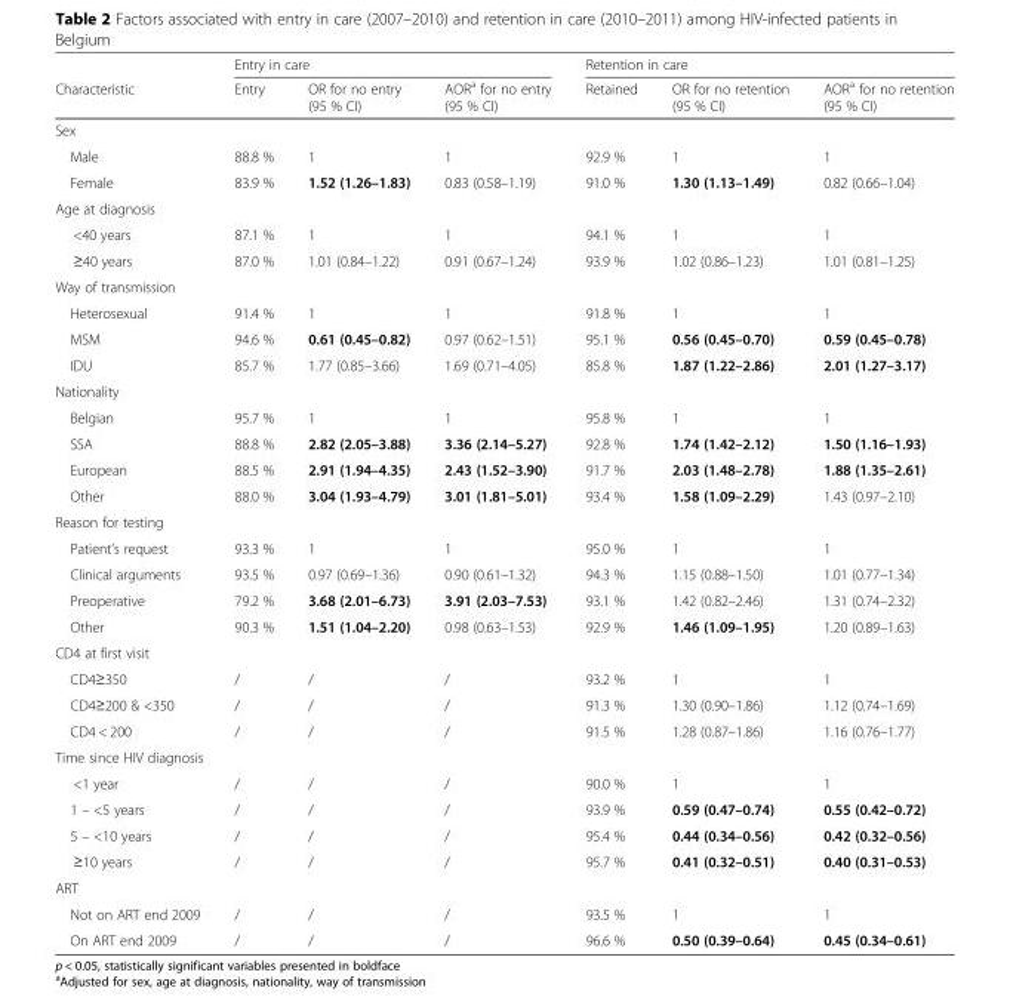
<table><thead><tr><td rowspan="2">Characteristic</td><td colspan="3">Entry in care</td><td colspan="3">Retention in care</td></tr><tr><td>Entry</td><td>OR for no entry (95 % CI)</td><td>AOR<sup>a</sup> for no entry (95 % CI)</td><td>Retained</td><td>OR for no retention (95 % CI)</td><td>AOR<sup>a</sup> for no retention (95 % CI)</td></tr></thead><tbody><tr><td colspan="7">Sex</td></tr><tr><td>Male</td><td>88.8 %</td><td>1</td><td>1</td><td>92.9 %</td><td>1</td><td>1</td></tr><tr><td>Female</td><td>83.9 %</td><td>1.52 (1.26–1.83)</td><td>0.83 (0.58–1.19)</td><td>91.0 %</td><td>1.30 (1.13–1.49)</td><td>0.82 (0.66–1.04)</td></tr><tr><td colspan="7">Age at diagnosis</td></tr><tr><td>&lt;40 years</td><td>87.1 %</td><td>1</td><td>1</td><td>94.1 %</td><td>1</td><td>1</td></tr><tr><td>≥40 years</td><td>87.0 %</td><td>1.01 (0.84–1.22)</td><td>0.91 (0.67–1.24)</td><td>93.9 %</td><td>1.02 (0.86–1.23)</td><td>1.01 (0.81–1.25)</td></tr><tr><td colspan="7">Way of transmission</td></tr><tr><td>Heterosexual</td><td>91.4 %</td><td>1</td><td>1</td><td>91.8 %</td><td>1</td><td>1</td></tr><tr><td>MSM</td><td>94.6 %</td><td>0.61 (0.45–0.82)</td><td>0.97 (0.62–1.51)</td><td>95.1 %</td><td>0.56 (0.45–0.70)</td><td>0.59 (0.45–0.78)</td></tr><tr><td>IDU</td><td>85.7 %</td><td>1.77 (0.85–3.66)</td><td>1.69 (0.71–4.05)</td><td>85.8 %</td><td>1.87 (1.22–2.86)</td><td>2.01 (1.27–3.17)</td></tr><tr><td colspan="7">Nationality</td></tr><tr><td>Belgian</td><td>95.7 %</td><td>1</td><td>1</td><td>95.8 %</td><td>1</td><td>1</td></tr><tr><td>SSA</td><td>88.8 %</td><td>2.82 (2.05–3.88)</td><td>3.36 (2.14–5.27)</td><td>92.8 %</td><td>1.74 (1.42–2.12)</td><td>1.50 (1.16–1.93)</td></tr><tr><td>European</td><td>88.5 %</td><td>2.91 (1.94–4.35)</td><td>2.43 (1.52–3.90)</td><td>91.7 %</td><td>2.03 (1.48–2.78)</td><td>1.88 (1.35–2.61)</td></tr><tr><td>Other</td><td>88.0 %</td><td>3.04 (1.93–4.79)</td><td>3.01 (1.81–5.01)</td><td>93.4 %</td><td>1.58 (1.09–2.29)</td><td>1.43 (0.97–2.10)</td></tr><tr><td colspan="7">Reason for testing</td></tr><tr><td>Patient’s request</td><td>93.3 %</td><td>1</td><td>1</td><td>95.0 %</td><td>1</td><td>1</td></tr><tr><td>Clinical arguments</td><td>93.5 %</td><td>0.97 (0.69–1.36)</td><td>0.90 (0.61–1.32)</td><td>94.3 %</td><td>1.15 (0.88–1.50)</td><td>1.01 (0.77–1.34)</td></tr><tr><td>Preoperative</td><td>79.2 %</td><td>3.68 (2.01–6.73)</td><td>3.91 (2.03–7.53)</td><td>93.1 %</td><td>1.42 (0.82–2.46)</td><td>1.31 (0.74–2.32)</td></tr><tr><td>Other</td><td>90.3 %</td><td>1.51 (1.04–2.20)</td><td>0.98 (0.63–1.53)</td><td>92.9 %</td><td>1.46 (1.09–1.95)</td><td>1.20 (0.89–1.63)</td></tr><tr><td colspan="7">CD4 at first visit</td></tr><tr><td>CD4≥350</td><td>/</td><td>/</td><td>/</td><td>93.2 %</td><td>1</td><td>1</td></tr><tr><td>CD4≥200 &amp; &lt;350</td><td>/</td><td>/</td><td>/</td><td>91.3 %</td><td>1.30 (0.90–1.86)</td><td>1.12 (0.74–1.69)</td></tr><tr><td>CD4 &lt; 200</td><td>/</td><td>/</td><td>/</td><td>91.5 %</td><td>1.28 (0.87–1.86)</td><td>1.16 (0.76–1.77)</td></tr><tr><td colspan="7">Time since HIV diagnosis</td></tr><tr><td>&lt;1 year</td><td>/</td><td>/</td><td>/</td><td>90.0 %</td><td>1</td><td>1</td></tr><tr><td>1 – &lt;5 years</td><td>/</td><td>/</td><td>/</td><td>93.9 %</td><td>0.59 (0.47–0.74)</td><td>0.55 (0.42–0.72)</td></tr><tr><td>5 – &lt;10 years</td><td>/</td><td>/</td><td>/</td><td>95.4 %</td><td>0.44 (0.34–0.56)</td><td>0.42 (0.32–0.56)</td></tr><tr><td>≥10 years</td><td>/</td><td>/</td><td>/</td><td>95.7 %</td><td>0.41 (0.32–0.51)</td><td>0.40 (0.31–0.53)</td></tr><tr><td colspan="7">ART</td></tr><tr><td>Not on ART end 2009</td><td>/</td><td>/</td><td>/</td><td>93.5 %</td><td>1</td><td>1</td></tr><tr><td>On ART end 2009</td><td>/</td><td>/</td><td>/</td><td>96.6 %</td><td>0.50 (0.39–0.64)</td><td>0.45 (0.34–0.61)</td></tr></tbody></table>